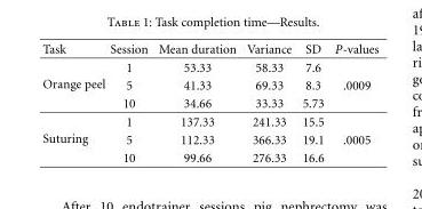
<table><thead><tr><td>Task</td><td>Session</td><td>Mean duration</td><td>Variance</td><td>SD</td><td>P-values</td></tr></thead><tbody><tr><td rowspan="3">Orange peel</td><td>1</td><td>53.33</td><td>58.33</td><td>7.6</td><td></td></tr><tr><td>5</td><td>41.33</td><td>69.33</td><td>8.3</td><td>.0009</td></tr><tr><td>10</td><td>34.66</td><td>33.33</td><td>5.73</td><td></td></tr><tr><td rowspan="3">Suturing</td><td>1</td><td>137.33</td><td>241.33</td><td>15.5</td><td></td></tr><tr><td>5</td><td>112.33</td><td>366.33</td><td>19.1</td><td>.0005</td></tr><tr><td>10</td><td>99.66</td><td>276.33</td><td>16.6</td><td></td></tr></tbody></table>